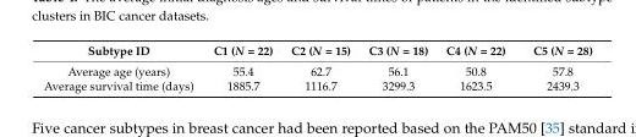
<table><thead><tr><td>Subtype ID</td><td>C1 (N = 22)</td><td>C2 (N = 15)</td><td>C3 (N = 18)</td><td>C4 (N = 22)</td><td>C5 (N = 28)</td></tr></thead><tbody><tr><td>Average age (years)</td><td>55.4</td><td>62.7</td><td>56.1</td><td>50.8</td><td>57.8</td></tr><tr><td>Average survival time (days)</td><td>1885.7</td><td>1116.7</td><td>3299.3</td><td>1623.5</td><td>2439.3</td></tr></tbody></table>